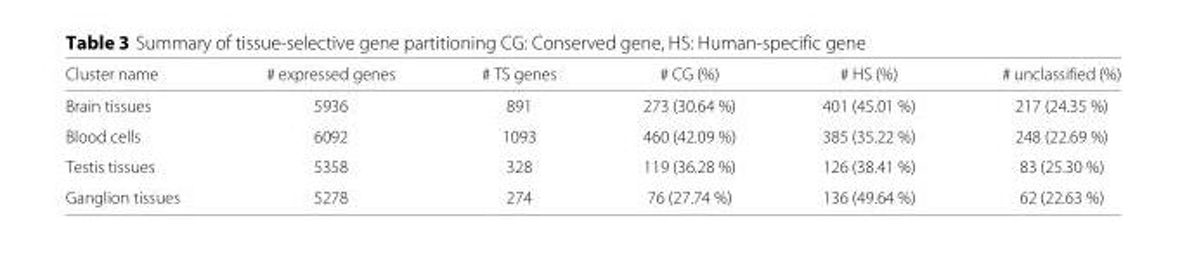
<table><thead><tr><td>Cluster name</td><td># expressed genes</td><td># TS genes</td><td># CG (%)</td><td># HS (%)</td><td># unclassified (%)</td></tr></thead><tbody><tr><td>Brain tissues</td><td>5936</td><td>891</td><td>273 (30.64 %)</td><td>401 (45.01 %)</td><td>217 (24.35 %)</td></tr><tr><td>Blood cells</td><td>6092</td><td>1093</td><td>460 (42.09 %)</td><td>385 (35.22 %)</td><td>248 (22.69 %)</td></tr><tr><td>Testis tissues</td><td>5358</td><td>328</td><td>119 (36.28 %)</td><td>126 (38.41 %)</td><td>83 (25.30 %)</td></tr><tr><td>Ganglion tissues</td><td>5278</td><td>274</td><td>76 (27.74 %)</td><td>136 (49.64 %)</td><td>62 (22.63 %)</td></tr></tbody></table>